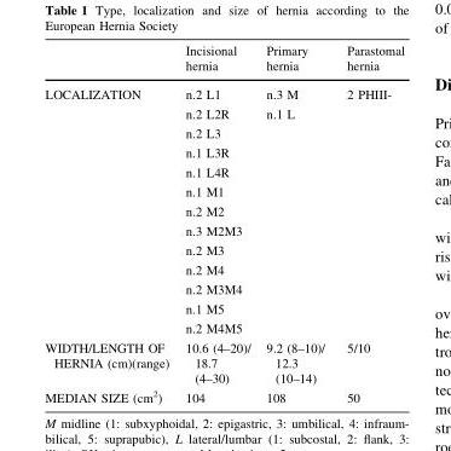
<table><thead><tr><td></td><td>Incisional hernia</td><td>Primary hernia</td><td>Parastomal hernia</td></tr></thead><tbody><tr><td>LOCALIZATION</td><td>n.2 L1 n.2 L2R n.2 L3 n.1 L3R n.1 L4R n.1 M1 n.2 M2 n.3 M2M3 n.2 M3 n.2 M4 n.2 M3M4 n.1 M5 n.2 M4M5</td><td>n.3 M n.1 L</td><td>2 PHIII-</td></tr><tr><td>WIDTH/LENGTH OF HERNIA (cm)(range)</td><td>10.6 (4–20)/ 18.7 (4–30)</td><td>9.2 (8–10)/ 12.3 (10–14)</td><td>5/10</td></tr><tr><td>MEDIAN SIZE (cm<sup>2</sup>)</td><td>104</td><td>108</td><td>50</td></tr></tbody></table>